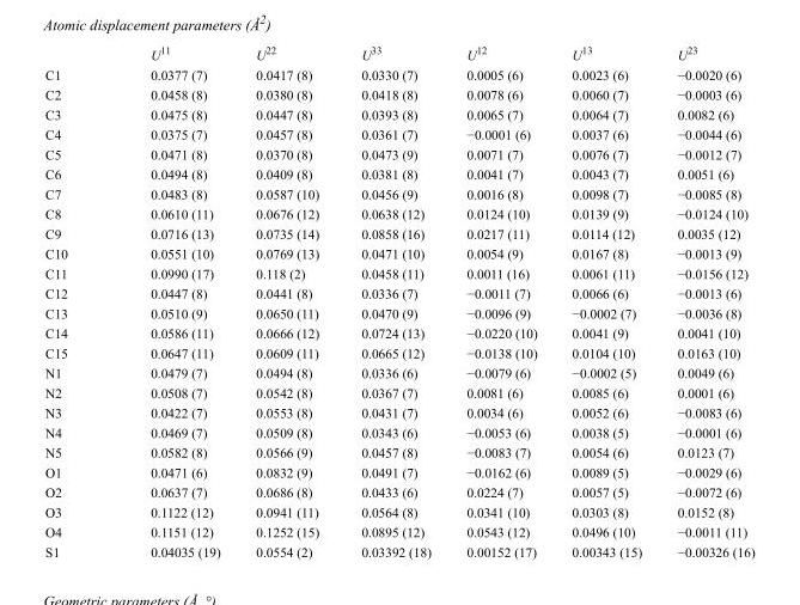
<table><thead><tr><td></td><td>U<sup>11</sup></td><td>U<sup>22</sup></td><td>U<sup>33</sup></td><td>U<sup>12</sup></td><td>U<sup>13</sup></td><td>U<sup>23</sup></td></tr></thead><tbody><tr><td>C1</td><td>0.0377 (7)</td><td>0.0417 (8)</td><td>0.0330 (7)</td><td>0.0005 (6)</td><td>0.0023 (6)</td><td>−0.0020 (6)</td></tr><tr><td>C2</td><td>0.0458 (8)</td><td>0.0380 (8)</td><td>0.0418 (8)</td><td>0.0078 (6)</td><td>0.0060 (7)</td><td>−0.0003 (6)</td></tr><tr><td>C3</td><td>0.0475 (8)</td><td>0.0447 (8)</td><td>0.0393 (8)</td><td>0.0065 (7)</td><td>0.0064 (7)</td><td>0.0082 (6)</td></tr><tr><td>C4</td><td>0.0375 (7)</td><td>0.0457 (8)</td><td>0.0361 (7)</td><td>−0.0001 (6)</td><td>0.0037 (6)</td><td>−0.0044 (6)</td></tr><tr><td>C5</td><td>0.0471 (8)</td><td>0.0370 (8)</td><td>0.0473 (9)</td><td>0.0071 (7)</td><td>0.0076 (7)</td><td>−0.0012 (7)</td></tr><tr><td>C6</td><td>0.0494 (8)</td><td>0.0409 (8)</td><td>0.0381 (8)</td><td>0.0041 (7)</td><td>0.0043 (7)</td><td>0.0051 (6)</td></tr><tr><td>C7</td><td>0.0483 (8)</td><td>0.0587 (10)</td><td>0.0456 (9)</td><td>0.0016 (8)</td><td>0.0098 (7)</td><td>−0.0085 (8)</td></tr><tr><td>C8</td><td>0.0610 (11)</td><td>0.0676 (12)</td><td>0.0638 (12)</td><td>0.0124 (10)</td><td>0.0139 (9)</td><td>−0.0124 (10)</td></tr><tr><td>C9</td><td>0.0716 (13)</td><td>0.0735 (14)</td><td>0.0858 (16)</td><td>0.0217 (11)</td><td>0.0114 (12)</td><td>0.0035 (12)</td></tr><tr><td>C10</td><td>0.0551 (10)</td><td>0.0769 (13)</td><td>0.0471 (10)</td><td>0.0054 (9)</td><td>0.0167 (8)</td><td>−0.0013 (9)</td></tr><tr><td>C11</td><td>0.0990 (17)</td><td>0.118 (2)</td><td>0.0458 (11)</td><td>0.0011 (16)</td><td>0.0061 (11)</td><td>−0.0156 (12)</td></tr><tr><td>C12</td><td>0.0447 (8)</td><td>0.0441 (8)</td><td>0.0336 (7)</td><td>−0.0011 (7)</td><td>0.0066 (6)</td><td>−0.0013 (6)</td></tr><tr><td>C13</td><td>0.0510 (9)</td><td>0.0650 (11)</td><td>0.0470 (9)</td><td>−0.0096 (9)</td><td>−0.0002 (7)</td><td>−0.0036 (8)</td></tr><tr><td>C14</td><td>0.0586 (11)</td><td>0.0666 (12)</td><td>0.0724 (13)</td><td>−0.0220 (10)</td><td>0.0041 (9)</td><td>0.0041 (10)</td></tr><tr><td>C15</td><td>0.0647 (11)</td><td>0.0609 (11)</td><td>0.0665 (12)</td><td>−0.0138 (10)</td><td>0.0104 (10)</td><td>0.0163 (10)</td></tr><tr><td>N1</td><td>0.0479 (7)</td><td>0.0494 (8)</td><td>0.0336 (6)</td><td>−0.0079 (6)</td><td>−0.0002 (5)</td><td>0.0049 (6)</td></tr><tr><td>N2</td><td>0.0508 (7)</td><td>0.0542 (8)</td><td>0.0367 (7)</td><td>0.0081 (6)</td><td>0.0085 (6)</td><td>0.0001 (6)</td></tr><tr><td>N3</td><td>0.0422 (7)</td><td>0.0553 (8)</td><td>0.0431 (7)</td><td>0.0034 (6)</td><td>0.0052 (6)</td><td>−0.0083 (6)</td></tr><tr><td>N4</td><td>0.0469 (7)</td><td>0.0509 (8)</td><td>0.0343 (6)</td><td>−0.0053 (6)</td><td>0.0038 (5)</td><td>−0.0001 (6)</td></tr><tr><td>N5</td><td>0.0582 (8)</td><td>0.0566 (9)</td><td>0.0457 (8)</td><td>−0.0083 (7)</td><td>0.0054 (6)</td><td>0.0123 (7)</td></tr><tr><td>O1</td><td>0.0471 (6)</td><td>0.0832 (9)</td><td>0.0491 (7)</td><td>−0.0162 (6)</td><td>0.0089 (5)</td><td>−0.0029 (6)</td></tr><tr><td>O2</td><td>0.0637 (7)</td><td>0.0686 (8)</td><td>0.0433 (6)</td><td>0.0224 (7)</td><td>0.0057 (5)</td><td>−0.0072 (6)</td></tr><tr><td>O3</td><td>0.1122 (12)</td><td>0.0941 (11)</td><td>0.0564 (8)</td><td>0.0341 (10)</td><td>0.0303 (8)</td><td>0.0152 (8)</td></tr><tr><td>O4</td><td>0.1151 (12)</td><td>0.1252 (15)</td><td>0.0895 (12)</td><td>0.0543 (12)</td><td>0.0496 (10)</td><td>−0.0011 (11)</td></tr><tr><td>S1</td><td>0.04035 (19)</td><td>0.0554 (2)</td><td>0.03392 (18)</td><td>0.00152 (17)</td><td>0.00343 (15)</td><td>−0.00326 (16)</td></tr></tbody></table>